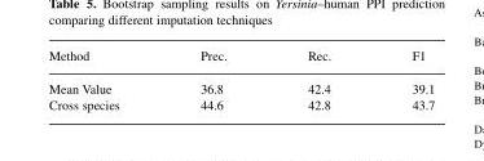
<table><thead><tr><td>Method</td><td>Prec.</td><td>Rec.</td><td>F1</td></tr></thead><tbody><tr><td>Mean Value</td><td>36.8</td><td>42.4</td><td>39.1</td></tr><tr><td>Cross species</td><td>44.6</td><td>42.8</td><td>43.7</td></tr></tbody></table>